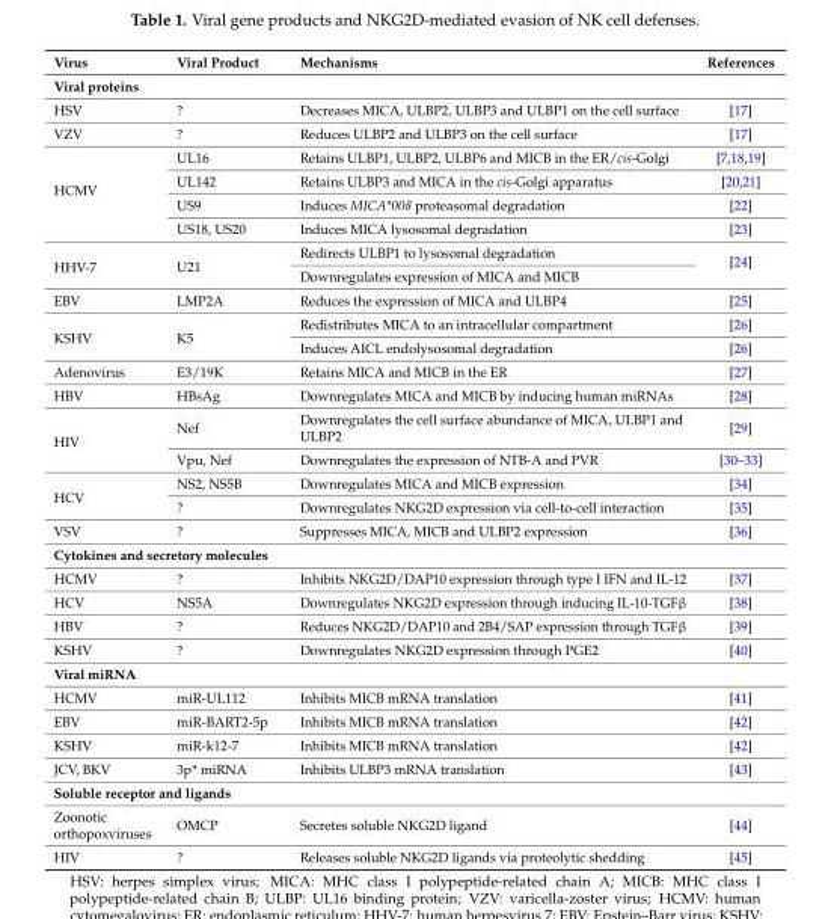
<table><thead><tr><td>Virus</td><td>Viral Product</td><td>Mechanisms</td><td>References</td></tr></thead><tbody><tr><td colspan="4">Viral proteins</td></tr><tr><td>HSV</td><td>?</td><td>Decreases MICA, ULBP2, ULBP3 and ULBP1 on the cell surface</td><td>[17]</td></tr><tr><td>VZV</td><td>?</td><td>Reduces ULBP2 and ULBP3 on the cell surface</td><td>[17]</td></tr><tr><td rowspan="4">HCMV</td><td>UL16</td><td>Retains ULBP1, ULBP2, ULBP6 and MICB in the ER/cis-Golgi</td><td>[7,18,19]</td></tr><tr><td>UL142</td><td>Retains ULBP3 and MICA in the cis-Golgi apparatus</td><td>[20,21]</td></tr><tr><td>US9</td><td>Induces MICA*008 proteasomal degradation</td><td>[22]</td></tr><tr><td>US18, US20</td><td>Induces MICA lysosomal degradation</td><td>[23]</td></tr><tr><td rowspan="2">HHV-7</td><td rowspan="2">U21</td><td>Redirects ULBP1 to lysosomal degradation</td><td rowspan="2">[24]</td></tr><tr><td>Downregulates expression of MICA and MICB</td></tr><tr><td>EBV</td><td>LMP2A</td><td>Reduces the expression of MICA and ULBP4</td><td>[25]</td></tr><tr><td rowspan="2">KSHV</td><td rowspan="2">K5</td><td>Redistributes MICA to an intracellular compartment</td><td>[26]</td></tr><tr><td>Induces AICL endolysosomal degradation</td><td>[26]</td></tr><tr><td>Adenovirus</td><td>E3/19K</td><td>Retains MICA and MICB in the ER</td><td>[27]</td></tr><tr><td>HBV</td><td>HBsAg</td><td>Downregulates MICA and MICB by inducing human miRNAs</td><td>[28]</td></tr><tr><td rowspan="2">HIV</td><td>Nef</td><td>Downregulates the cell surface abundance of MICA, ULBP1 and ULBP2</td><td>[29]</td></tr><tr><td>Vpu, Nef</td><td>Downregulates the expression of NTB-A and PVR</td><td>[30–33]</td></tr><tr><td rowspan="2">HCV</td><td>NS2, NS5B</td><td>Downregulates MICA and MICB expression</td><td>[34]</td></tr><tr><td>?</td><td>Downregulates NKG2D expression via cell-to-cell interaction</td><td>[35]</td></tr><tr><td>VSV</td><td>?</td><td>Suppresses MICA, MICB and ULBP2 expression</td><td>[36]</td></tr><tr><td colspan="4">Cytokines and secretory molecules</td></tr><tr><td>HCMV</td><td>?</td><td>Inhibits NKG2D/DAP10 expression through type I IFN and IL-12</td><td>[37]</td></tr><tr><td>HCV</td><td>NS5A</td><td>Downregulates NKG2D expression through inducing IL-10-TGFβ</td><td>[38]</td></tr><tr><td>HBV</td><td>?</td><td>Reduces NKG2D/DAP10 and 2B4/SAP expression through TGFβ</td><td>[39]</td></tr><tr><td>KSHV</td><td>?</td><td>Downregulates NKG2D expression through PGE2</td><td>[40]</td></tr><tr><td colspan="4">Viral miRNA</td></tr><tr><td>HCMV</td><td>miR-UL112</td><td>Inhibits MICB mRNA translation</td><td>[41]</td></tr><tr><td>EBV</td><td>miR-BART2-5p</td><td>Inhibits MICB mRNA translation</td><td>[42]</td></tr><tr><td>KSHV</td><td>miR-k12-7</td><td>Inhibits MICB mRNA translation</td><td>[42]</td></tr><tr><td>JCV, BKV</td><td>3p* miRNA</td><td>Inhibits ULBP3 mRNA translation</td><td>[43]</td></tr><tr><td colspan="4">Soluble receptor and ligands</td></tr><tr><td>Zoonotic orthopoxviruses</td><td>OMCP</td><td>Secretes soluble NKG2D ligand</td><td>[44]</td></tr><tr><td>HIV</td><td>?</td><td>Releases soluble NKG2D ligands via proteolytic shedding</td><td>[45]</td></tr></tbody></table>